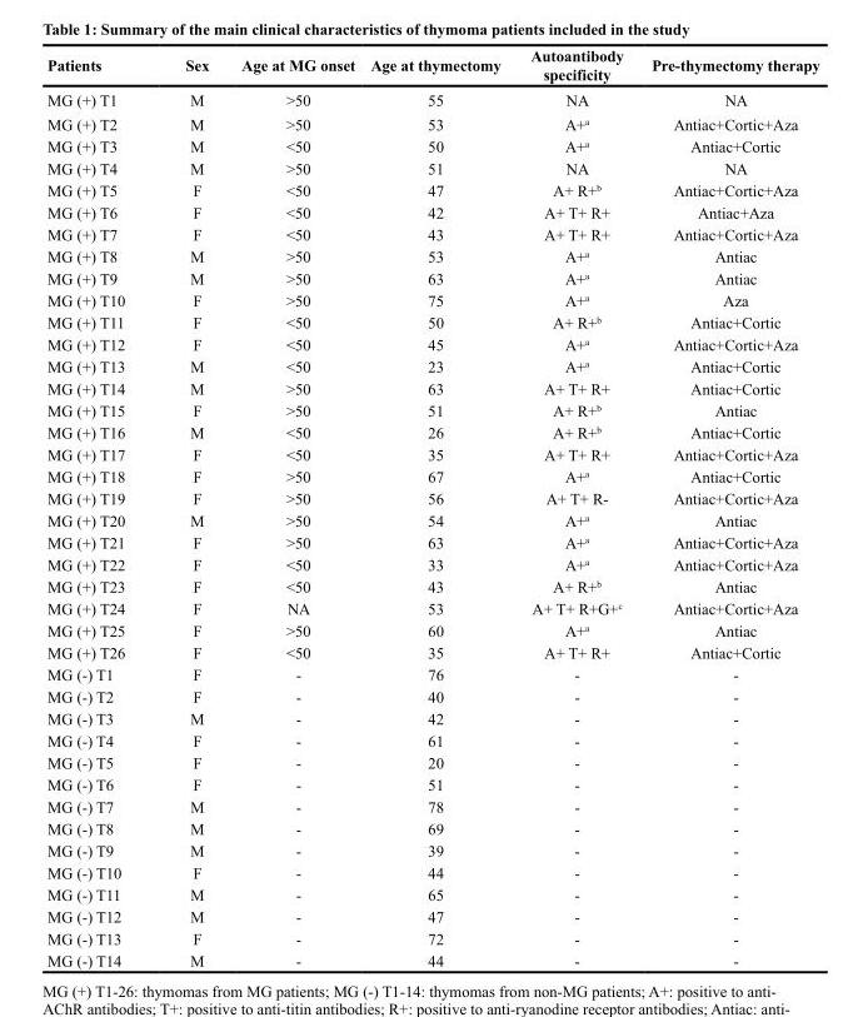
<table><thead><tr><td>Patients</td><td>Sex</td><td>Age at MG onset</td><td>Age at thymectomy</td><td>Autoantibody specificity</td><td>Pre-thymectomy therapy</td></tr></thead><tbody><tr><td>MG (+) T1</td><td>M</td><td>&gt;50</td><td>55</td><td>NA</td><td>NA</td></tr><tr><td>MG (+) T2</td><td>M</td><td>&gt;50</td><td>53</td><td>A+<sup>a</sup></td><td>Antiac+Cortic+Aza</td></tr><tr><td>MG (+) T3</td><td>M</td><td>&lt;50</td><td>50</td><td>A+<sup>a</sup></td><td>Antiac+Cortic</td></tr><tr><td>MG (+) T4</td><td>M</td><td>&gt;50</td><td>51</td><td>NA</td><td>NA</td></tr><tr><td>MG (+) T5</td><td>F</td><td>&lt;50</td><td>47</td><td>A+ R+<sup>b</sup></td><td>Antiac+Cortic+Aza</td></tr><tr><td>MG (+) T6</td><td>F</td><td>&lt;50</td><td>42</td><td>A+ T+ R+</td><td>Antiac+Aza</td></tr><tr><td>MG (+) T7</td><td>F</td><td>&lt;50</td><td>43</td><td>A+ T+ R+</td><td>Antiac+Cortic+Aza</td></tr><tr><td>MG (+) T8</td><td>M</td><td>&gt;50</td><td>53</td><td>A+<sup>a</sup></td><td>Antiac</td></tr><tr><td>MG (+) T9</td><td>M</td><td>&gt;50</td><td>63</td><td>A+<sup>a</sup></td><td>Antiac</td></tr><tr><td>MG (+) T10</td><td>F</td><td>&gt;50</td><td>75</td><td>A+<sup>a</sup></td><td>Aza</td></tr><tr><td>MG (+) T11</td><td>F</td><td>&lt;50</td><td>50</td><td>A+ R+<sup>b</sup></td><td>Antiac+Cortic</td></tr><tr><td>MG (+) T12</td><td>F</td><td>&lt;50</td><td>45</td><td>A+<sup>a</sup></td><td>Antiac+Cortic+Aza</td></tr><tr><td>MG (+) T13</td><td>M</td><td>&lt;50</td><td>23</td><td>A+<sup>a</sup></td><td>Antiac+Cortic</td></tr><tr><td>MG (+) T14</td><td>M</td><td>&gt;50</td><td>63</td><td>A+ T+ R+</td><td>Antiac+Cortic</td></tr><tr><td>MG (+) T15</td><td>F</td><td>&gt;50</td><td>51</td><td>A+ R+<sup>b</sup></td><td>Antiac</td></tr><tr><td>MG (+) T16</td><td>M</td><td>&lt;50</td><td>26</td><td>A+ R+<sup>b</sup></td><td>Antiac+Cortic</td></tr><tr><td>MG (+) T17</td><td>F</td><td>&lt;50</td><td>35</td><td>A+ T+ R+</td><td>Antiac+Cortic+Aza</td></tr><tr><td>MG (+) T18</td><td>F</td><td>&gt;50</td><td>67</td><td>A+<sup>a</sup></td><td>Antiac+Cortic</td></tr><tr><td>MG (+) T19</td><td>F</td><td>&gt;50</td><td>56</td><td>A+ T+ R-</td><td>Antiac+Cortic+Aza</td></tr><tr><td>MG (+) T20</td><td>M</td><td>&gt;50</td><td>54</td><td>A+<sup>a</sup></td><td>Antiac</td></tr><tr><td>MG (+) T21</td><td>F</td><td>&gt;50</td><td>63</td><td>A+<sup>a</sup></td><td>Antiac+Cortic+Aza</td></tr><tr><td>MG (+) T22</td><td>F</td><td>&lt;50</td><td>33</td><td>A+<sup>a</sup></td><td>Antiac+Cortic+Aza</td></tr><tr><td>MG (+) T23</td><td>F</td><td>&lt;50</td><td>43</td><td>A+ R+<sup>b</sup></td><td>Antiac</td></tr><tr><td>MG (+) T24</td><td>F</td><td>NA</td><td>53</td><td>A+ T+ R+G+<sup>c</sup></td><td>Antiac+Cortic+Aza</td></tr><tr><td>MG (+) T25</td><td>F</td><td>&gt;50</td><td>60</td><td>A+<sup>a</sup></td><td>Antiac</td></tr><tr><td>MG (+) T26</td><td>F</td><td>&lt;50</td><td>35</td><td>A+ T+ R+</td><td>Antiac+Cortic</td></tr><tr><td>MG (-) T1</td><td>F</td><td>-</td><td>76</td><td>-</td><td>-</td></tr><tr><td>MG (-) T2</td><td>F</td><td>-</td><td>40</td><td>-</td><td>-</td></tr><tr><td>MG (-) T3</td><td>M</td><td>-</td><td>42</td><td>-</td><td>-</td></tr><tr><td>MG (-) T4</td><td>F</td><td>-</td><td>61</td><td>-</td><td>-</td></tr><tr><td>MG (-) T5</td><td>F</td><td>-</td><td>20</td><td>-</td><td>-</td></tr><tr><td>MG (-) T6</td><td>F</td><td>-</td><td>51</td><td>-</td><td>-</td></tr><tr><td>MG (-) T7</td><td>M</td><td>-</td><td>78</td><td>-</td><td>-</td></tr><tr><td>MG (-) T8</td><td>M</td><td>-</td><td>69</td><td>-</td><td>-</td></tr><tr><td>MG (-) T9</td><td>M</td><td>-</td><td>39</td><td>-</td><td>-</td></tr><tr><td>MG (-) T10</td><td>F</td><td>-</td><td>44</td><td>-</td><td>-</td></tr><tr><td>MG (-) T11</td><td>M</td><td>-</td><td>65</td><td>-</td><td>-</td></tr><tr><td>MG (-) T12</td><td>M</td><td>-</td><td>47</td><td>-</td><td>-</td></tr><tr><td>MG (-) T13</td><td>F</td><td>-</td><td>72</td><td>-</td><td>-</td></tr><tr><td>MG (-) T14</td><td>M</td><td>-</td><td>44</td><td>-</td><td>-</td></tr></tbody></table>